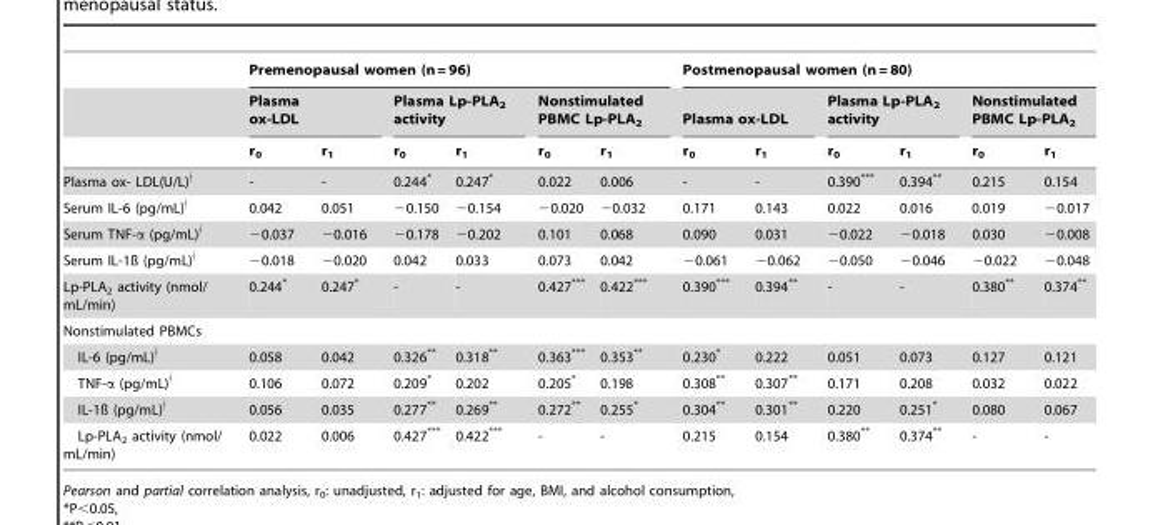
<table><thead><tr><td rowspan="3"></td><td colspan="6">Premenopausal women (n = 96)</td><td colspan="6">Postmenopausal women (n = 80)</td></tr><tr><td colspan="2">Plasma ox-LDL</td><td colspan="2">Plasma Lp-PLA<sub>2</sub> activity</td><td colspan="2">Nonstimulated PBMC Lp-PLA<sub>2</sub></td><td colspan="2">Plasma ox-LDL</td><td colspan="2">Plasma Lp-PLA<sub>2</sub> activity</td><td colspan="2">Nonstimulated PBMC Lp-PLA<sub>2</sub></td></tr><tr><td>r<sub>0</sub></td><td>r<sub>1</sub></td><td>r<sub>0</sub></td><td>r<sub>1</sub></td><td>r<sub>0</sub></td><td>r<sub>1</sub></td><td>r<sub>0</sub></td><td>r<sub>1</sub></td><td>r<sub>0</sub></td><td>r<sub>1</sub></td><td>r<sub>0</sub></td><td>r<sub>1</sub></td></tr></thead><tbody><tr><td>Plasma ox- LDL(U/L)∮</td><td>-</td><td>-</td><td>0.244*</td><td>0.247*</td><td>0.022</td><td>0.006</td><td>-</td><td>-</td><td>0.390***</td><td>0.394**</td><td>0.215</td><td>0.154</td></tr><tr><td>Serum IL-6 (pg/mL)∮</td><td>0.042</td><td>0.051</td><td>−0.150</td><td>−0.154</td><td>−0.020</td><td>−0.032</td><td>0.171</td><td>0.143</td><td>0.022</td><td>0.016</td><td>0.019</td><td>−0.017</td></tr><tr><td>Serum TNF-α (pg/mL)∮</td><td>−0.037</td><td>−0.016</td><td>−0.178</td><td>−0.202</td><td>0.101</td><td>0.068</td><td>0.090</td><td>0.031</td><td>−0.022</td><td>−0.018</td><td>0.030</td><td>−0.008</td></tr><tr><td>Serum IL-1ß (pg/mL)∮</td><td>−0.018</td><td>−0.020</td><td>0.042</td><td>0.033</td><td>0.073</td><td>0.042</td><td>−0.061</td><td>−0.062</td><td>−0.050</td><td>−0.046</td><td>−0.022</td><td>−0.048</td></tr><tr><td>Lp-PLA<sub>2</sub> activity (nmol/ mL/min)</td><td>0.244*</td><td>0.247*</td><td>-</td><td>-</td><td>0.427***</td><td>0.422***</td><td>0.390***</td><td>0.394**</td><td>-</td><td>-</td><td>0.380**</td><td>0.374**</td></tr><tr><td colspan="13">Nonstimulated PBMCs</td></tr><tr><td>IL-6 (pg/mL)∮</td><td>0.058</td><td>0.042</td><td>0.326**</td><td>0.318**</td><td>0.363***</td><td>0.353**</td><td>0.230*</td><td>0.222</td><td>0.051</td><td>0.073</td><td>0.127</td><td>0.121</td></tr><tr><td>TNF-α (pg/mL)∮</td><td>0.106</td><td>0.072</td><td>0.209*</td><td>0.202</td><td>0.205*</td><td>0.198</td><td>0.308**</td><td>0.307**</td><td>0.171</td><td>0.208</td><td>0.032</td><td>0.022</td></tr><tr><td>IL-1ß (pg/mL)∮</td><td>0.056</td><td>0.035</td><td>0.277**</td><td>0.269**</td><td>0.272**</td><td>0.255*</td><td>0.304**</td><td>0.301**</td><td>0.220</td><td>0.251*</td><td>0.080</td><td>0.067</td></tr><tr><td>Lp-PLA<sub>2</sub> activity (nmol/ mL/min)</td><td>0.022</td><td>0.006</td><td>0.427***</td><td>0.422***</td><td>-</td><td>-</td><td>0.215</td><td>0.154</td><td>0.380**</td><td>0.374**</td><td>-</td><td>-</td></tr></tbody></table>